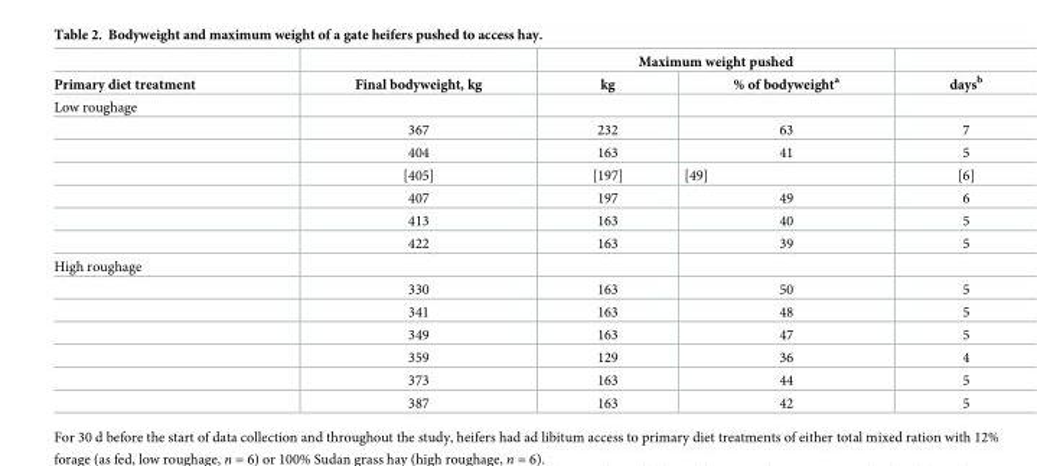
<table><thead><tr><td rowspan="2">Primary diet treatment</td><td rowspan="2">Final bodyweight, kg</td><td colspan="2">Maximum weight pushed</td><td rowspan="2">days<sup>b</sup></td></tr><tr><td>kg</td><td>% of bodyweight<sup>a</sup></td></tr></thead><tbody><tr><td colspan="5">Low roughage</td></tr><tr><td></td><td>367</td><td>232</td><td>63</td><td>7</td></tr><tr><td></td><td>404</td><td>163</td><td>41</td><td>5</td></tr><tr><td></td><td>[405]</td><td>[197]</td><td>[49]</td><td>[6]</td></tr><tr><td></td><td>407</td><td>197</td><td>49</td><td>6</td></tr><tr><td></td><td>413</td><td>163</td><td>40</td><td>5</td></tr><tr><td></td><td>422</td><td>163</td><td>39</td><td>5</td></tr><tr><td colspan="5">High roughage</td></tr><tr><td></td><td>330</td><td>163</td><td>50</td><td>5</td></tr><tr><td></td><td>341</td><td>163</td><td>48</td><td>5</td></tr><tr><td></td><td>349</td><td>163</td><td>47</td><td>5</td></tr><tr><td></td><td>359</td><td>129</td><td>36</td><td>4</td></tr><tr><td></td><td>373</td><td>163</td><td>44</td><td>5</td></tr><tr><td></td><td>387</td><td>163</td><td>42</td><td>5</td></tr></tbody></table>